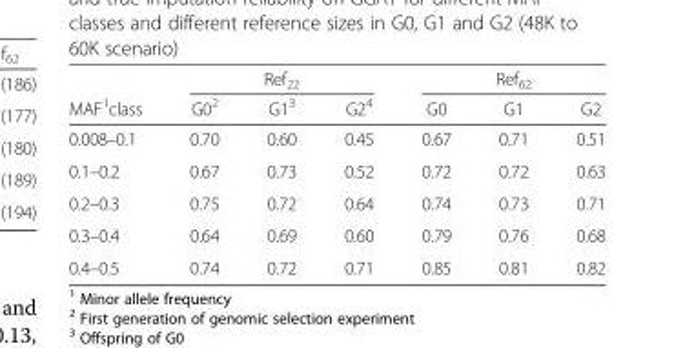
<table><thead><tr><td rowspan="2">MAF<sup>1</sup>class</td><td colspan="3">Ref<sub>22</sub></td><td colspan="3">Ref<sub>62</sub></td></tr><tr><td>G0<sup>2</sup></td><td>G1<sup>3</sup></td><td>G2<sup>4</sup></td><td>G0</td><td>G1</td><td>G2</td></tr></thead><tbody><tr><td>0.008–0.1</td><td>0.70</td><td>0.60</td><td>0.45</td><td>0.67</td><td>0.71</td><td>0.51</td></tr><tr><td>0.1–0.2</td><td>0.67</td><td>0.73</td><td>0.52</td><td>0.72</td><td>0.72</td><td>0.63</td></tr><tr><td>0.2–0.3</td><td>0.75</td><td>0.72</td><td>0.64</td><td>0.74</td><td>0.73</td><td>0.71</td></tr><tr><td>0.3–0.4</td><td>0.64</td><td>0.69</td><td>0.60</td><td>0.79</td><td>0.76</td><td>0.68</td></tr><tr><td>0.4–0.5</td><td>0.74</td><td>0.72</td><td>0.71</td><td>0.85</td><td>0.81</td><td>0.82</td></tr></tbody></table>